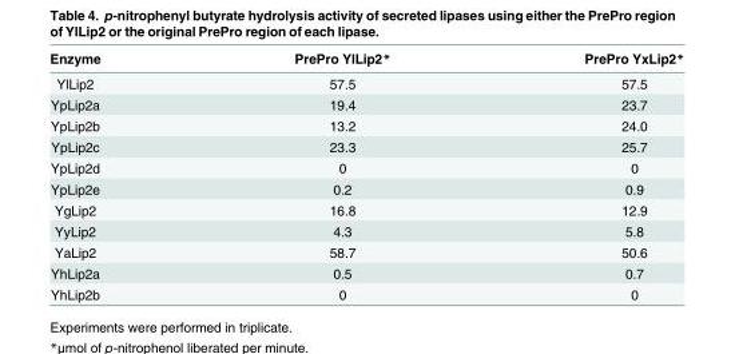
<table><thead><tr><td>Enzyme</td><td>PrePro YlLip2*</td><td>PrePro YxLip2*</td></tr></thead><tbody><tr><td>YlLip2</td><td>57.5</td><td>57.5</td></tr><tr><td>YpLip2a</td><td>19.4</td><td>23.7</td></tr><tr><td>YpLip2b</td><td>13.2</td><td>24.0</td></tr><tr><td>YpLip2c</td><td>23.3</td><td>25.7</td></tr><tr><td>YpLip2d</td><td>0</td><td>0</td></tr><tr><td>YpLip2e</td><td>0.2</td><td>0.9</td></tr><tr><td>YgLip2</td><td>16.8</td><td>12.9</td></tr><tr><td>YyLip2</td><td>4.3</td><td>5.8</td></tr><tr><td>YaLip2</td><td>58.7</td><td>50.6</td></tr><tr><td>YhLip2a</td><td>0.5</td><td>0.7</td></tr><tr><td>YhLip2b</td><td>0</td><td>0</td></tr></tbody></table>